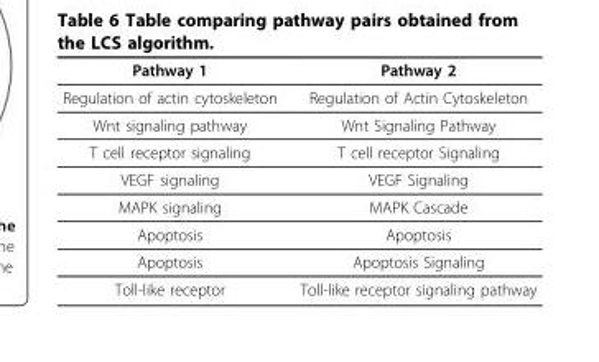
<table><thead><tr><td>Pathway 1</td><td>Pathway 2</td></tr></thead><tbody><tr><td>Regulation of actin cytoskeleton</td><td>Regulation of Actin Cytoskeleton</td></tr><tr><td>Wnt signaling pathway</td><td>Wnt Signaling Pathway</td></tr><tr><td>T cell receptor signaling</td><td>T cell receptor Signaling</td></tr><tr><td>VEGF signaling</td><td>VEGF Signaling</td></tr><tr><td>MAPK signaling</td><td>MAPK Cascade</td></tr><tr><td>Apoptosis</td><td>Apoptosis</td></tr><tr><td>Apoptosis</td><td>Apoptosis Signaling</td></tr><tr><td>Toll-like receptor</td><td>Toll-like receptor signaling pathway</td></tr></tbody></table>